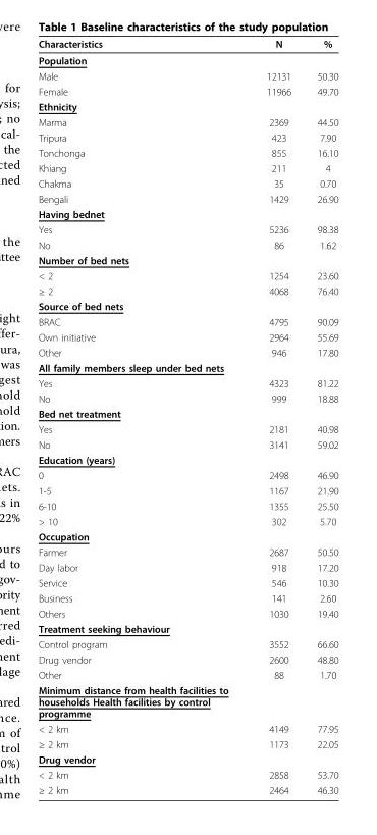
<table><thead><tr><td>Characteristics</td><td>N</td><td>%</td></tr></thead><tbody><tr><td colspan="3">Population</td></tr><tr><td>Male</td><td>12131</td><td>50.30</td></tr><tr><td>Female</td><td>11966</td><td>49.70</td></tr><tr><td colspan="3">Ethnicity</td></tr><tr><td>Marma</td><td>2369</td><td>44.50</td></tr><tr><td>Tripura</td><td>423</td><td>7.90</td></tr><tr><td>Tonchonga</td><td>855</td><td>16.10</td></tr><tr><td>Khiang</td><td>211</td><td>4</td></tr><tr><td>Chakma</td><td>35</td><td>0.70</td></tr><tr><td>Bengali</td><td>1429</td><td>26.90</td></tr><tr><td colspan="3">Having bednet</td></tr><tr><td>Yes</td><td>5236</td><td>98.38</td></tr><tr><td>No</td><td>86</td><td>1.62</td></tr><tr><td colspan="3">Number of bed nets</td></tr><tr><td>&lt; 2</td><td>1254</td><td>23.60</td></tr><tr><td>≥ 2</td><td>4068</td><td>76.40</td></tr><tr><td colspan="3">Source of bed nets</td></tr><tr><td>BRAC</td><td>4795</td><td>90.09</td></tr><tr><td>Own initiative</td><td>2964</td><td>55.69</td></tr><tr><td>Other</td><td>946</td><td>17.80</td></tr><tr><td colspan="3">All family members sleep under bed nets</td></tr><tr><td>Yes</td><td>4323</td><td>81.22</td></tr><tr><td>No</td><td>999</td><td>18.88</td></tr><tr><td colspan="3">Bed net treatment</td></tr><tr><td>Yes</td><td>2181</td><td>40.98</td></tr><tr><td>No</td><td>3141</td><td>59.02</td></tr><tr><td colspan="3">Education (years)</td></tr><tr><td>0</td><td>2498</td><td>46.90</td></tr><tr><td>1-5</td><td>1167</td><td>21.90</td></tr><tr><td>6-10</td><td>1355</td><td>25.50</td></tr><tr><td>&gt; 10</td><td>302</td><td>5.70</td></tr><tr><td colspan="3">Occupation</td></tr><tr><td>Farmer</td><td>2687</td><td>50.50</td></tr><tr><td>Day labor</td><td>918</td><td>17.20</td></tr><tr><td>Service</td><td>546</td><td>10.30</td></tr><tr><td>Business</td><td>141</td><td>2.60</td></tr><tr><td>Others</td><td>1030</td><td>19.40</td></tr><tr><td colspan="3">Treatment seeking behaviour</td></tr><tr><td>Control program</td><td>3552</td><td>66.60</td></tr><tr><td>Drug vendor</td><td>2600</td><td>48.80</td></tr><tr><td>Other</td><td>88</td><td>1.70</td></tr><tr><td colspan="3">Minimum distance from health facilities to households Health facilities by control programme</td></tr><tr><td>&lt; 2 km</td><td>4149</td><td>77.95</td></tr><tr><td>≥ 2 km</td><td>1173</td><td>22.05</td></tr><tr><td colspan="3">Drug vendor</td></tr><tr><td>&lt; 2 km</td><td>2858</td><td>53.70</td></tr><tr><td>≥ 2 km</td><td>2464</td><td>46.30</td></tr></tbody></table>